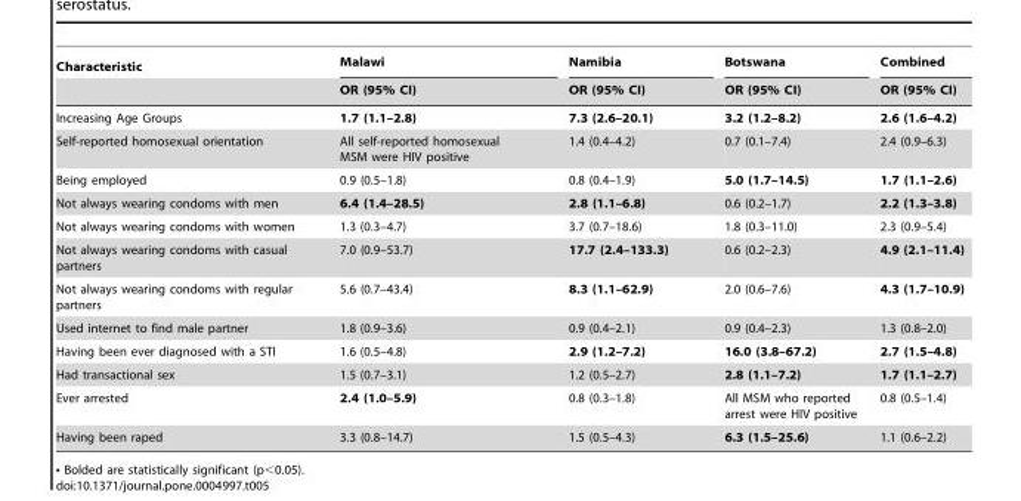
<table><thead><tr><td rowspan="2">Characteristic</td><td rowspan="2">Malawi OR (95% CI)</td><td rowspan="2">Namibia OR (95% CI)</td><td rowspan="2">Botswana OR (95% CI)</td><td rowspan="2">Combined OR (95% CI)</td></tr><tr></tr></thead><tbody><tr><td>Increasing Age Groups</td><td>1.7 (1.1–2.8)</td><td>7.3 (2.6–20.1)</td><td>3.2 (1.2–8.2)</td><td>2.6 (1.6–4.2)</td></tr><tr><td>Self-reported homosexual orientation</td><td>All self-reported homosexual MSM were HIV positive</td><td>1.4 (0.4–4.2)</td><td>0.7 (0.1–7.4)</td><td>2.4 (0.9–6.3)</td></tr><tr><td>Being employed</td><td>0.9 (0.5–1.8)</td><td>0.8 (0.4–1.9)</td><td>5.0 (1.7–14.5)</td><td>1.7 (1.1–2.6)</td></tr><tr><td>Not always wearing condoms with men</td><td>6.4 (1.4–28.5)</td><td>2.8 (1.1–6.8)</td><td>0.6 (0.2–1.7)</td><td>2.2 (1.3–3.8)</td></tr><tr><td>Not always wearing condoms with women</td><td>1.3 (0.3–4.7)</td><td>3.7 (0.7–18.6)</td><td>1.8 (0.3–11.0)</td><td>2.3 (0.9–5.4)</td></tr><tr><td>Not always wearing condoms with casual partners</td><td>7.0 (0.9–53.7)</td><td>17.7 (2.4–133.3)</td><td>0.6 (0.2–2.3)</td><td>4.9 (2.1–11.4)</td></tr><tr><td>Not always wearing condoms with regular partners</td><td>5.6 (0.7–43.4)</td><td>8.3 (1.1–62.9)</td><td>2.0 (0.6–7.6)</td><td>4.3 (1.7–10.9)</td></tr><tr><td>Used internet to find male partner</td><td>1.8 (0.9–3.6)</td><td>0.9 (0.4–2.1)</td><td>0.9 (0.4–2.3)</td><td>1.3 (0.8–2.0)</td></tr><tr><td>Having been ever diagnosed with a STI</td><td>1.6 (0.5–4.8)</td><td>2.9 (1.2–7.2)</td><td>16.0 (3.8–67.2)</td><td>2.7 (1.5–4.8)</td></tr><tr><td>Had transactional sex</td><td>1.5 (0.7–3.1)</td><td>1.2 (0.5–2.7)</td><td>2.8 (1.1–7.2)</td><td>1.7 (1.1–2.7)</td></tr><tr><td>Ever arrested</td><td>2.4 (1.0–5.9)</td><td>0.8 (0.3–1.8)</td><td>All MSM who reported arrest were HIV positive</td><td>0.8 (0.5–1.4)</td></tr><tr><td>Having been raped</td><td>3.3 (0.8–14.7)</td><td>1.5 (0.5–4.3)</td><td>6.3 (1.5–25.6)</td><td>1.1 (0.6–2.2)</td></tr></tbody></table>